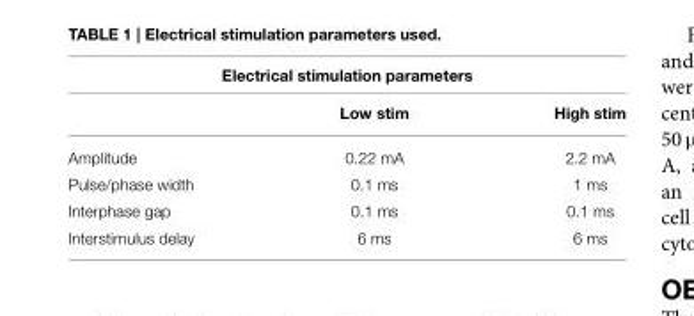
<table><thead><tr><td colspan="3">Electrical stimulation parameters</td></tr><tr><td></td><td>Low stim</td><td>High stim</td></tr></thead><tbody><tr><td>Amplitude</td><td>0.22 mA</td><td>2.2 mA</td></tr><tr><td>Pulse/phase width</td><td>0.1 ms</td><td>1 ms</td></tr><tr><td>Interphase gap</td><td>0.1 ms</td><td>0.1 ms</td></tr><tr><td>Interstimulus delay</td><td>6 ms</td><td>6 ms</td></tr></tbody></table>